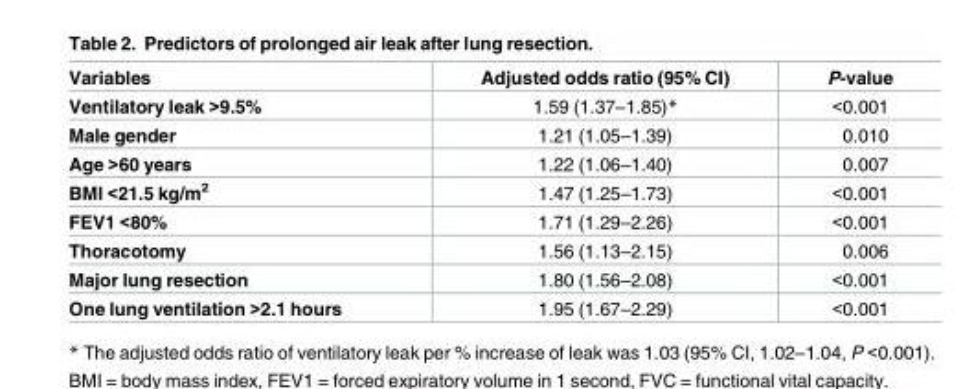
<table><thead><tr><td>Variables</td><td>Adjusted odds ratio (95% CI)</td><td>P-value</td></tr></thead><tbody><tr><td>Ventilatory leak &gt;9.5%</td><td>1.59 (1.37–1.85)*</td><td>&lt;0.001</td></tr><tr><td>Male gender</td><td>1.21 (1.05–1.39)</td><td>0.010</td></tr><tr><td>Age &gt;60 years</td><td>1.22 (1.06–1.40)</td><td>0.007</td></tr><tr><td>BMI &lt;21.5 kg/m<sup>2</sup></td><td>1.47 (1.25–1.73)</td><td>&lt;0.001</td></tr><tr><td>FEV1 &lt;80%</td><td>1.71 (1.29–2.26)</td><td>&lt;0.001</td></tr><tr><td>Thoracotomy</td><td>1.56 (1.13–2.15)</td><td>0.006</td></tr><tr><td>Major lung resection</td><td>1.80 (1.56–2.08)</td><td>&lt;0.001</td></tr><tr><td>One lung ventilation &gt;2.1 hours</td><td>1.95 (1.67–2.29)</td><td>&lt;0.001</td></tr></tbody></table>